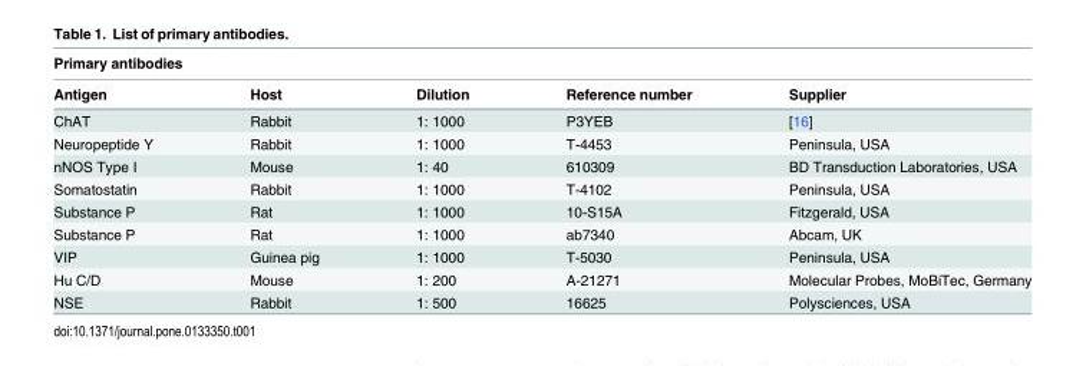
<table><thead><tr><td colspan="5">Primary antibodies</td></tr><tr><td>Antigen</td><td>Host</td><td>Dilution</td><td>Reference number</td><td>Supplier</td></tr></thead><tbody><tr><td>ChAT</td><td>Rabbit</td><td>1: 1000</td><td>P3YEB</td><td>[16]</td></tr><tr><td>Neuropeptide Y</td><td>Rabbit</td><td>1: 1000</td><td>T-4453</td><td>Peninsula, USA</td></tr><tr><td>nNOS Type I</td><td>Mouse</td><td>1: 40</td><td>610309</td><td>BD Transduction Laboratories, USA</td></tr><tr><td>Somatostatin</td><td>Rabbit</td><td>1: 1000</td><td>T-4102</td><td>Peninsula, USA</td></tr><tr><td>Substance P</td><td>Rat</td><td>1: 1000</td><td>10-S15A</td><td>Fitzgerald, USA</td></tr><tr><td>Substance P</td><td>Rat</td><td>1: 1000</td><td>ab7340</td><td>Abcam, UK</td></tr><tr><td>VIP</td><td>Guinea pig</td><td>1: 1000</td><td>T-5030</td><td>Peninsula, USA</td></tr><tr><td>Hu C/D</td><td>Mouse</td><td>1: 200</td><td>A-21271</td><td>Molecular Probes, MoBiTec, Germany</td></tr><tr><td>NSE</td><td>Rabbit</td><td>1: 500</td><td>16625</td><td>Polysciences, USA</td></tr></tbody></table>